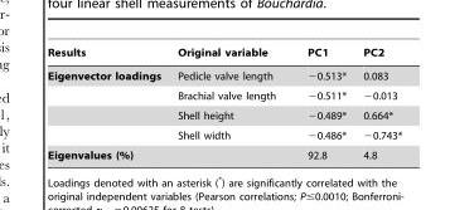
<table><thead><tr><td>Results</td><td>Original variable</td><td>PC1</td><td>PC2</td></tr></thead><tbody><tr><td rowspan="4">Eigenvector loadings</td><td>Pedicle valve length</td><td>−0.513*</td><td>0.083</td></tr><tr><td>Brachial valve length</td><td>−0.511*</td><td>−0.013</td></tr><tr><td>Shell height</td><td>−0.489*</td><td>0.664*</td></tr><tr><td>Shell width</td><td>−0.486*</td><td>−0.743*</td></tr><tr><td>Eigenvalues (%)</td><td></td><td>92.8</td><td>4.8</td></tr></tbody></table>